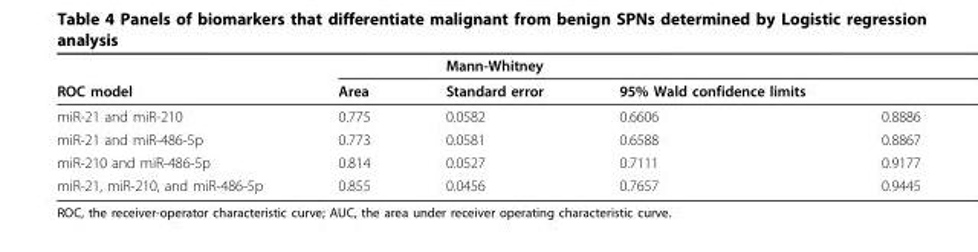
<table><thead><tr><td rowspan="2">ROC model</td><td rowspan="2">Area</td><td rowspan="2">Mann-Whitney Standard error</td><td rowspan="2">95% Wald confidence limits</td><td rowspan="2"></td></tr><tr></tr></thead><tbody><tr><td>miR-21 and miR-210</td><td>0.775</td><td>0.0582</td><td>0.6606</td><td>0.8886</td></tr><tr><td>miR-21 and miR-486-5p</td><td>0.773</td><td>0.0581</td><td>0.6588</td><td>0.8867</td></tr><tr><td>miR-210 and miR-486-5p</td><td>0.814</td><td>0.0527</td><td>0.7111</td><td>0.9177</td></tr><tr><td>miR-21, miR-210, and miR-486-5p</td><td>0.855</td><td>0.0456</td><td>0.7657</td><td>0.9445</td></tr></tbody></table>